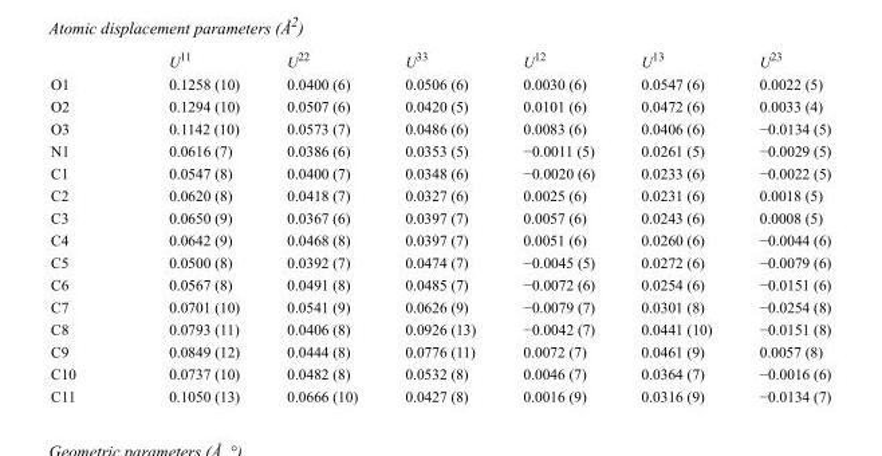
<table><thead><tr><td></td><td>U<sup>11</sup></td><td>U<sup>22</sup></td><td>U<sup>33</sup></td><td>U<sup>12</sup></td><td>U<sup>13</sup></td><td>U<sup>23</sup></td></tr></thead><tbody><tr><td>O1</td><td>0.1258 (10)</td><td>0.0400 (6)</td><td>0.0506 (6)</td><td>0.0030 (6)</td><td>0.0547 (6)</td><td>0.0022 (5)</td></tr><tr><td>O2</td><td>0.1294 (10)</td><td>0.0507 (6)</td><td>0.0420 (5)</td><td>0.0101 (6)</td><td>0.0472 (6)</td><td>0.0033 (4)</td></tr><tr><td>O3</td><td>0.1142 (10)</td><td>0.0573 (7)</td><td>0.0486 (6)</td><td>0.0083 (6)</td><td>0.0406 (6)</td><td>−0.0134 (5)</td></tr><tr><td>N1</td><td>0.0616 (7)</td><td>0.0386 (6)</td><td>0.0353 (5)</td><td>−0.0011 (5)</td><td>0.0261 (5)</td><td>−0.0029 (5)</td></tr><tr><td>C1</td><td>0.0547 (8)</td><td>0.0400 (7)</td><td>0.0348 (6)</td><td>−0.0020 (6)</td><td>0.0233 (6)</td><td>−0.0022 (5)</td></tr><tr><td>C2</td><td>0.0620 (8)</td><td>0.0418 (7)</td><td>0.0327 (6)</td><td>0.0025 (6)</td><td>0.0231 (6)</td><td>0.0018 (5)</td></tr><tr><td>C3</td><td>0.0650 (9)</td><td>0.0367 (6)</td><td>0.0397 (7)</td><td>0.0057 (6)</td><td>0.0243 (6)</td><td>0.0008 (5)</td></tr><tr><td>C4</td><td>0.0642 (9)</td><td>0.0468 (8)</td><td>0.0397 (7)</td><td>0.0051 (6)</td><td>0.0260 (6)</td><td>−0.0044 (6)</td></tr><tr><td>C5</td><td>0.0500 (8)</td><td>0.0392 (7)</td><td>0.0474 (7)</td><td>−0.0045 (5)</td><td>0.0272 (6)</td><td>−0.0079 (6)</td></tr><tr><td>C6</td><td>0.0567 (8)</td><td>0.0491 (8)</td><td>0.0485 (7)</td><td>−0.0072 (6)</td><td>0.0254 (6)</td><td>−0.0151 (6)</td></tr><tr><td>C7</td><td>0.0701 (10)</td><td>0.0541 (9)</td><td>0.0626 (9)</td><td>−0.0079 (7)</td><td>0.0301 (8)</td><td>−0.0254 (8)</td></tr><tr><td>C8</td><td>0.0793 (11)</td><td>0.0406 (8)</td><td>0.0926 (13)</td><td>−0.0042 (7)</td><td>0.0441 (10)</td><td>−0.0151 (8)</td></tr><tr><td>C9</td><td>0.0849 (12)</td><td>0.0444 (8)</td><td>0.0776 (11)</td><td>0.0072 (7)</td><td>0.0461 (9)</td><td>0.0057 (8)</td></tr><tr><td>C10</td><td>0.0737 (10)</td><td>0.0482 (8)</td><td>0.0532 (8)</td><td>0.0046 (7)</td><td>0.0364 (7)</td><td>−0.0016 (6)</td></tr><tr><td>C11</td><td>0.1050 (13)</td><td>0.0666 (10)</td><td>0.0427 (8)</td><td>0.0016 (9)</td><td>0.0316 (9)</td><td>−0.0134 (7)</td></tr></tbody></table>